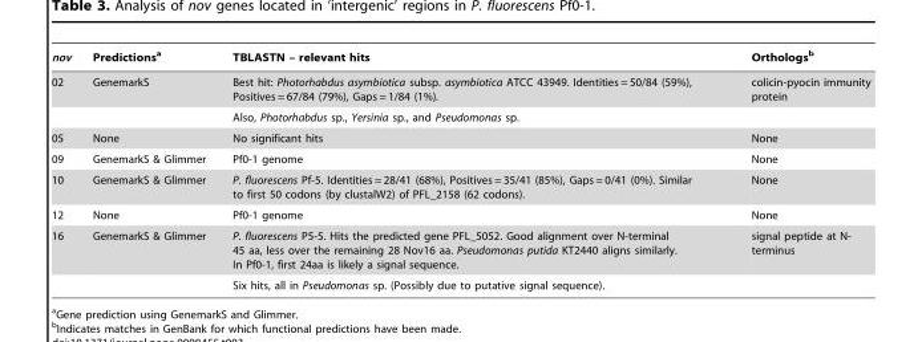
<table><thead><tr><td>nov</td><td>Predictions<sup>a</sup></td><td>TBLASTN – relevant hits</td><td>Orthologs<sup>b</sup></td></tr></thead><tbody><tr><td rowspan="2">02</td><td>GenemarkS</td><td>Best hit: Photorhabdus asymbiotica subsp. asymbiotica ATCC 43949. Identities = 50/84 (59%), Positives = 67/84 (79%), Gaps = 1/84 (1%).</td><td>colicin-pyocin immunity protein</td></tr><tr><td></td><td>Also, Photorhabdus sp., Yersinia sp., and Pseudomonas sp.</td><td></td></tr><tr><td>05</td><td>None</td><td>No significant hits</td><td>None</td></tr><tr><td>09</td><td>GenemarkS &amp; Glimmer</td><td>Pf0-1 genome</td><td>None</td></tr><tr><td>10</td><td>GenemarkS &amp; Glimmer</td><td>P. fluorescens Pf-5. Identities = 28/41 (68%), Positives = 35/41 (85%), Gaps = 0/41 (0%). Similar to first 50 codons (by clustalW2) of PFL_2158 (62 codons).</td><td>None</td></tr><tr><td>12</td><td>None</td><td>Pf0-1 genome</td><td>None</td></tr><tr><td rowspan="2">16</td><td>GenemarkS &amp; Glimmer</td><td>P. fluorescens P5-5. Hits the predicted gene PFL_5052. Good alignment over N-terminal 45 aa, less over the remaining 28 Nov16 aa. Pseudomonas putida KT2440 aligns similarly. In Pf0-1, first 24aa is likely a signal sequence.</td><td>signal peptide at N- terminus</td></tr><tr><td></td><td>Six hits, all in Pseudomonas sp. (Possibly due to putative signal sequence).</td><td></td></tr></tbody></table>